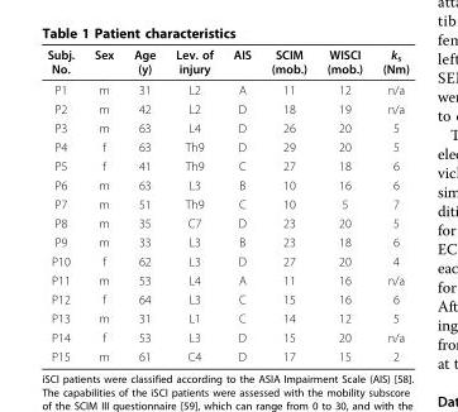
<table><thead><tr><td>Subj. No.</td><td>Sex</td><td>Age (y)</td><td>Lev. of injury</td><td>AIS</td><td>SCIM (mob.)</td><td>WISCI (mob.)</td><td>k<sub>s</sub> (Nm)</td></tr></thead><tbody><tr><td>P1</td><td>m</td><td>31</td><td>L2</td><td>A</td><td>11</td><td>12</td><td>n/a</td></tr><tr><td>P2</td><td>m</td><td>42</td><td>L2</td><td>D</td><td>18</td><td>19</td><td>n/a</td></tr><tr><td>P3</td><td>m</td><td>63</td><td>L4</td><td>D</td><td>26</td><td>20</td><td>5</td></tr><tr><td>P4</td><td>f</td><td>63</td><td>Th9</td><td>D</td><td>29</td><td>20</td><td>5</td></tr><tr><td>P5</td><td>f</td><td>41</td><td>Th9</td><td>C</td><td>27</td><td>18</td><td>6</td></tr><tr><td>P6</td><td>m</td><td>63</td><td>L3</td><td>B</td><td>10</td><td>16</td><td>6</td></tr><tr><td>P7</td><td>m</td><td>51</td><td>Th9</td><td>C</td><td>10</td><td>5</td><td>7</td></tr><tr><td>P8</td><td>m</td><td>35</td><td>C7</td><td>D</td><td>23</td><td>20</td><td>5</td></tr><tr><td>P9</td><td>m</td><td>33</td><td>L3</td><td>B</td><td>23</td><td>18</td><td>6</td></tr><tr><td>P10</td><td>f</td><td>62</td><td>L3</td><td>D</td><td>27</td><td>20</td><td>4</td></tr><tr><td>P11</td><td>m</td><td>53</td><td>L4</td><td>A</td><td>11</td><td>16</td><td>n/a</td></tr><tr><td>P12</td><td>f</td><td>64</td><td>L3</td><td>C</td><td>15</td><td>16</td><td>6</td></tr><tr><td>P13</td><td>m</td><td>31</td><td>L1</td><td>C</td><td>14</td><td>12</td><td>5</td></tr><tr><td>P14</td><td>f</td><td>53</td><td>L3</td><td>D</td><td>15</td><td>20</td><td>n/a</td></tr><tr><td>P15</td><td>m</td><td>61</td><td>C4</td><td>D</td><td>17</td><td>15</td><td>2</td></tr></tbody></table>